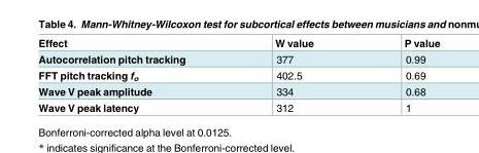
<table><thead><tr><td>Effect</td><td>W value</td><td>P value</td></tr></thead><tbody><tr><td>Autocorrelation pitch tracking</td><td>377</td><td>0.99</td></tr><tr><td>FFT pitch tracking f<sub>o</sub></td><td>402.5</td><td>0.69</td></tr><tr><td>Wave V peak amplitude</td><td>334</td><td>0.68</td></tr><tr><td>Wave V peak latency</td><td>312</td><td>1</td></tr></tbody></table>